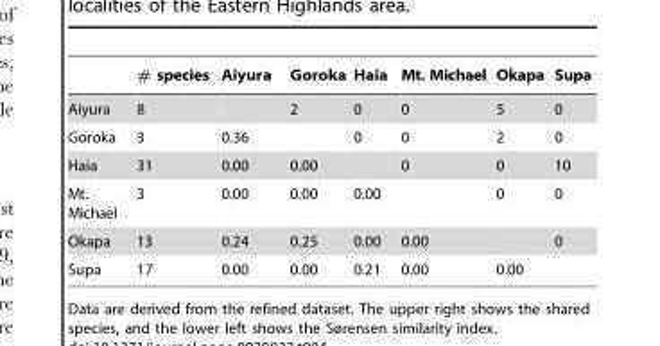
<table><thead><tr><td></td><td># species</td><td>Aiyura</td><td>Goroka</td><td>Haia</td><td>Mt. Michael</td><td>Okapa</td><td>Supa</td></tr></thead><tbody><tr><td>Aiyura</td><td>8</td><td></td><td>2</td><td>0</td><td>0</td><td>5</td><td>0</td></tr><tr><td>Goroka</td><td>3</td><td>0.36</td><td></td><td>0</td><td>0</td><td>2</td><td>0</td></tr><tr><td>Haia</td><td>31</td><td>0.00</td><td>0.00</td><td></td><td>0</td><td>0</td><td>10</td></tr><tr><td>Mt. Michael</td><td>3</td><td>0.00</td><td>0.00</td><td>0.00</td><td></td><td>0</td><td>0</td></tr><tr><td>Okapa</td><td>13</td><td>0.24</td><td>0.25</td><td>0.00</td><td>0.00</td><td></td><td>0</td></tr><tr><td>Supa</td><td>17</td><td>0.00</td><td>0.00</td><td>0.21</td><td>0.00</td><td>0.00</td><td></td></tr></tbody></table>